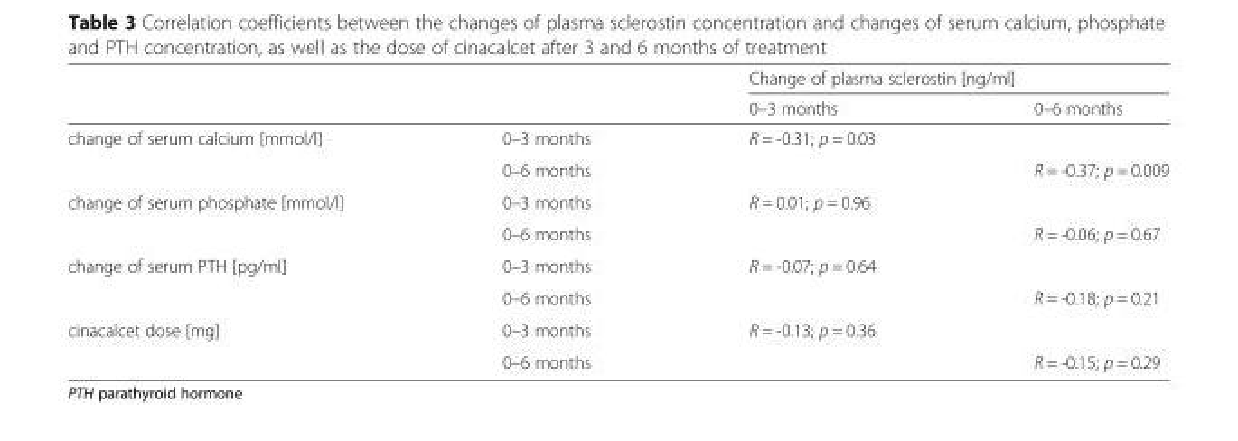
<table><thead><tr><td rowspan="2"></td><td rowspan="2"></td><td colspan="2">Change of plasma sclerostin [ng/ml]</td></tr><tr><td>0–3 months</td><td>0–6 months</td></tr></thead><tbody><tr><td rowspan="2">change of serum calcium [mmol/l]</td><td>0–3 months</td><td>R = -0.31; p = 0.03</td><td></td></tr><tr><td>0–6 months</td><td></td><td>R = -0.37; p = 0.009</td></tr><tr><td rowspan="2">change of serum phosphate [mmol/l]</td><td>0–3 months</td><td>R = 0.01; p = 0.96</td><td></td></tr><tr><td>0–6 months</td><td></td><td>R = -0.06; p = 0.67</td></tr><tr><td rowspan="2">change of serum PTH [pg/ml]</td><td>0–3 months</td><td>R = -0.07; p = 0.64</td><td></td></tr><tr><td>0–6 months</td><td></td><td>R = -0.18; p = 0.21</td></tr><tr><td rowspan="2">cinacalcet dose [mg]</td><td>0–3 months</td><td>R = -0.13; p = 0.36</td><td></td></tr><tr><td>0–6 months</td><td></td><td>R = -0.15; p = 0.29</td></tr></tbody></table>